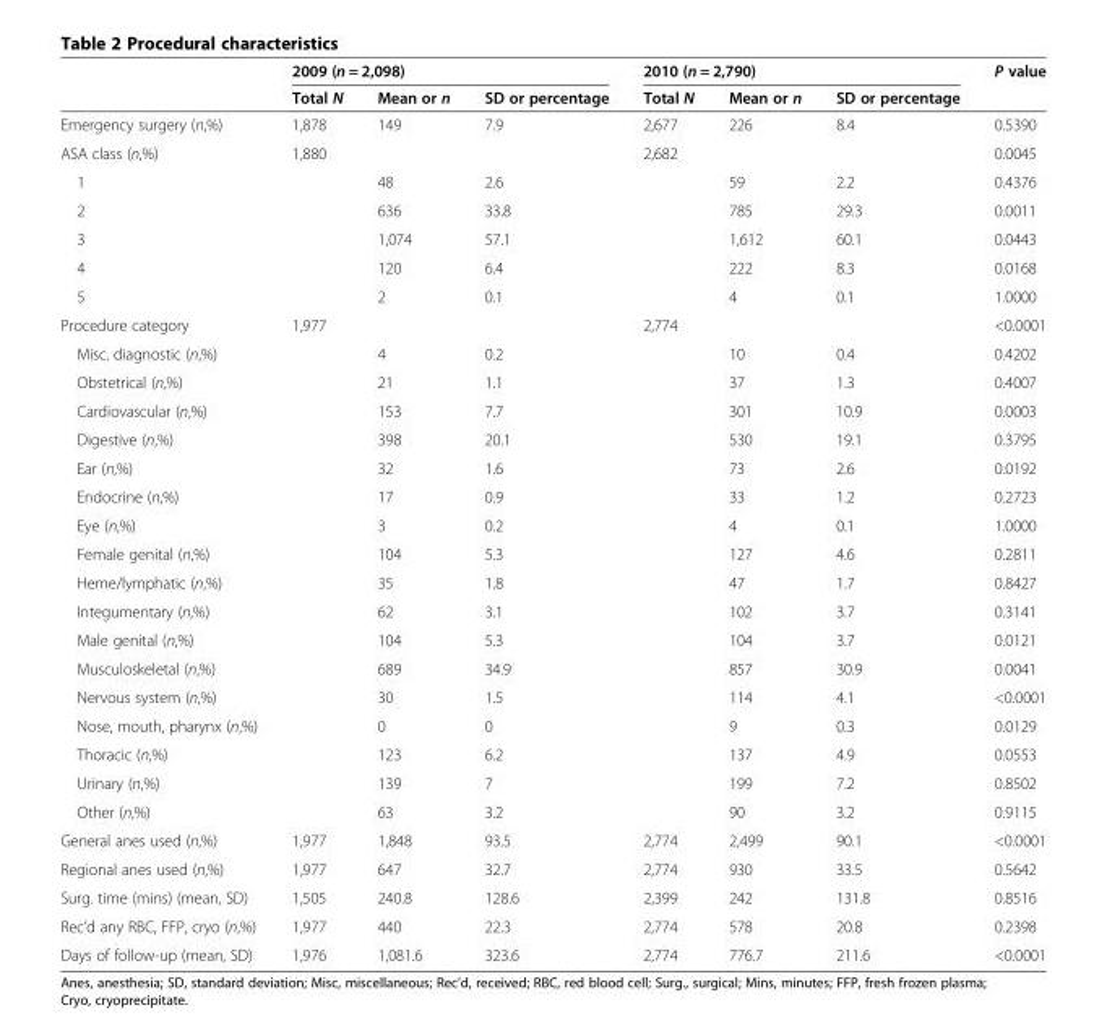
<table><thead><tr><td rowspan="2"></td><td colspan="3">2009 (n = 2,098)</td><td colspan="3">2010 (n = 2,790)</td><td rowspan="2">P value</td></tr><tr><td>Total N</td><td>Mean or n</td><td>SD or percentage</td><td>Total N</td><td>Mean or n</td><td>SD or percentage</td></tr></thead><tbody><tr><td>Emergency surgery (n,%)</td><td>1,878</td><td>149</td><td>7.9</td><td>2,677</td><td>226</td><td>8.4</td><td>0.5390</td></tr><tr><td>ASA class (n,%)</td><td>1,880</td><td></td><td></td><td>2,682</td><td></td><td></td><td>0.0045</td></tr><tr><td>1</td><td></td><td>48</td><td>2.6</td><td></td><td>59</td><td>2.2</td><td>0.4376</td></tr><tr><td>2</td><td></td><td>636</td><td>33.8</td><td></td><td>785</td><td>29.3</td><td>0.0011</td></tr><tr><td>3</td><td></td><td>1,074</td><td>57.1</td><td></td><td>1,612</td><td>60.1</td><td>0.0443</td></tr><tr><td>4</td><td></td><td>120</td><td>6.4</td><td></td><td>222</td><td>8.3</td><td>0.0168</td></tr><tr><td>5</td><td></td><td>2</td><td>0.1</td><td></td><td>4</td><td>0.1</td><td>1.0000</td></tr><tr><td>Procedure category</td><td>1,977</td><td></td><td></td><td>2,774</td><td></td><td></td><td>&lt;0.0001</td></tr><tr><td>Misc. diagnostic (n,%)</td><td></td><td>4</td><td>0.2</td><td></td><td>10</td><td>0.4</td><td>0.4202</td></tr><tr><td>Obstetrical (n,%)</td><td></td><td>21</td><td>1.1</td><td></td><td>37</td><td>1.3</td><td>0.4007</td></tr><tr><td>Cardiovascular (n,%)</td><td></td><td>153</td><td>7.7</td><td></td><td>301</td><td>10.9</td><td>0.0003</td></tr><tr><td>Digestive (n,%)</td><td></td><td>398</td><td>20.1</td><td></td><td>530</td><td>19.1</td><td>0.3795</td></tr><tr><td>Ear (n,%)</td><td></td><td>32</td><td>1.6</td><td></td><td>73</td><td>2.6</td><td>0.0192</td></tr><tr><td>Endocrine (n,%)</td><td></td><td>17</td><td>0.9</td><td></td><td>33</td><td>1.2</td><td>0.2723</td></tr><tr><td>Eye (n,%)</td><td></td><td>3</td><td>0.2</td><td></td><td>4</td><td>0.1</td><td>1.0000</td></tr><tr><td>Female genital (n,%)</td><td></td><td>104</td><td>5.3</td><td></td><td>127</td><td>4.6</td><td>0.2811</td></tr><tr><td>Heme/lymphatic (n,%)</td><td></td><td>35</td><td>1.8</td><td></td><td>47</td><td>1.7</td><td>0.8427</td></tr><tr><td>Integumentary (n,%)</td><td></td><td>62</td><td>3.1</td><td></td><td>102</td><td>3.7</td><td>0.3141</td></tr><tr><td>Male genital (n,%)</td><td></td><td>104</td><td>5.3</td><td></td><td>104</td><td>3.7</td><td>0.0121</td></tr><tr><td>Musculoskeletal (n,%)</td><td></td><td>689</td><td>34.9</td><td></td><td>857</td><td>30.9</td><td>0.0041</td></tr><tr><td>Nervous system (n,%)</td><td></td><td>30</td><td>1.5</td><td></td><td>114</td><td>4.1</td><td>&lt;0.0001</td></tr><tr><td>Nose, mouth, pharynx (n,%)</td><td></td><td>0</td><td>0</td><td></td><td>9</td><td>0.3</td><td>0.0129</td></tr><tr><td>Thoracic (n,%)</td><td></td><td>123</td><td>6.2</td><td></td><td>137</td><td>4.9</td><td>0.0553</td></tr><tr><td>Urinary (n,%)</td><td></td><td>139</td><td>7</td><td></td><td>199</td><td>7.2</td><td>0.8502</td></tr><tr><td>Other (n,%)</td><td></td><td>63</td><td>3.2</td><td></td><td>90</td><td>3.2</td><td>0.9115</td></tr><tr><td>General anes used (n,%)</td><td>1,977</td><td>1,848</td><td>93.5</td><td>2,774</td><td>2,499</td><td>90.1</td><td>&lt;0.0001</td></tr><tr><td>Regional anes used (n,%)</td><td>1,977</td><td>647</td><td>32.7</td><td>2,774</td><td>930</td><td>33.5</td><td>0.5642</td></tr><tr><td>Surg. time (mins) (mean, SD)</td><td>1,505</td><td>240.8</td><td>128.6</td><td>2,399</td><td>242</td><td>131.8</td><td>0.8516</td></tr><tr><td>Rec’d any RBC, FFP, cryo (n,%)</td><td>1,977</td><td>440</td><td>22.3</td><td>2,774</td><td>578</td><td>20.8</td><td>0.2398</td></tr><tr><td>Days of follow-up (mean, SD)</td><td>1,976</td><td>1,081.6</td><td>323.6</td><td>2,774</td><td>776.7</td><td>211.6</td><td>&lt;0.0001</td></tr></tbody></table>